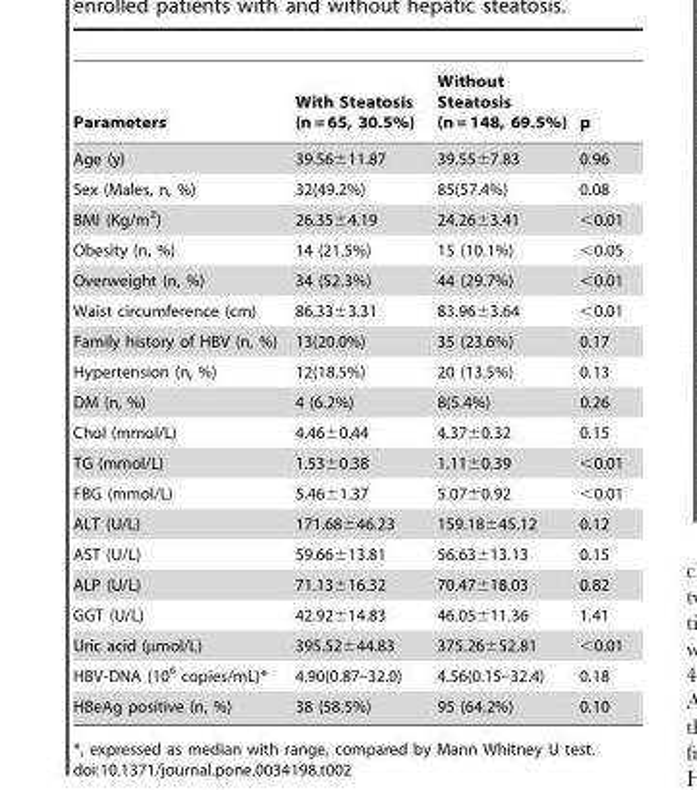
<table><thead><tr><td>Parameters</td><td>With Steatosis (n = 65, 30.5%)</td><td>Without Steatosis (n = 148, 69.5%)</td><td>p</td></tr></thead><tbody><tr><td>Age (y)</td><td>39.56±11.87</td><td>39.55±7.83</td><td>0.96</td></tr><tr><td>Sex (Males, n, %)</td><td>32(49.2%)</td><td>85(57.4%)</td><td>0.08</td></tr><tr><td>BMI (Kg/m<sup>2</sup>)</td><td>26.35±4.19</td><td>24.26±3.41</td><td>&lt;0.01</td></tr><tr><td>Obesity (n, %)</td><td>14 (21.5%)</td><td>15 (10.1%)</td><td>&lt;0.05</td></tr><tr><td>Overweight (n, %)</td><td>34 (52.3%)</td><td>44 (29.7%)</td><td>&lt;0.01</td></tr><tr><td>Waist circumference (cm)</td><td>86.33±3.31</td><td>83.96±3.64</td><td>&lt;0.01</td></tr><tr><td>Family history of HBV (n, %)</td><td>13(20.0%)</td><td>35 (23.6%)</td><td>0.17</td></tr><tr><td>Hypertension (n, %)</td><td>12(18.5%)</td><td>20 (13.5%)</td><td>0.13</td></tr><tr><td>DM (n, %)</td><td>4 (6.2%)</td><td>8(5.4%)</td><td>0.26</td></tr><tr><td>Chol (mmol/L)</td><td>4.46±0.44</td><td>4.37±0.32</td><td>0.15</td></tr><tr><td>TG (mmol/L)</td><td>1.53±0.38</td><td>1.11±0.39</td><td>&lt;0.01</td></tr><tr><td>FBG (mmol/L)</td><td>5.46±1.37</td><td>5.07±0.92</td><td>&lt;0.01</td></tr><tr><td>ALT (U/L)</td><td>171.68±46.23</td><td>159.18±45.12</td><td>0.12</td></tr><tr><td>AST (U/L)</td><td>59.66±13.81</td><td>56.63±13.13</td><td>0.15</td></tr><tr><td>ALP (U/L)</td><td>71.13±16.32</td><td>70.47±18.03</td><td>0.82</td></tr><tr><td>GGT (U/L)</td><td>42.92±14.83</td><td>46.05±11.36</td><td>1.41</td></tr><tr><td>Uric acid (µmol/L)</td><td>395.52±44.83</td><td>375.26±52.81</td><td>&lt;0.01</td></tr><tr><td>HBV-DNA (10<sup>6</sup> copies/mL)*</td><td>4.90(0.87–32.0)</td><td>4.56(0.15–32.4)</td><td>0.18</td></tr><tr><td>HBeAg positive (n, %)</td><td>38 (58.5%)</td><td>95 (64.2%)</td><td>0.10</td></tr></tbody></table>